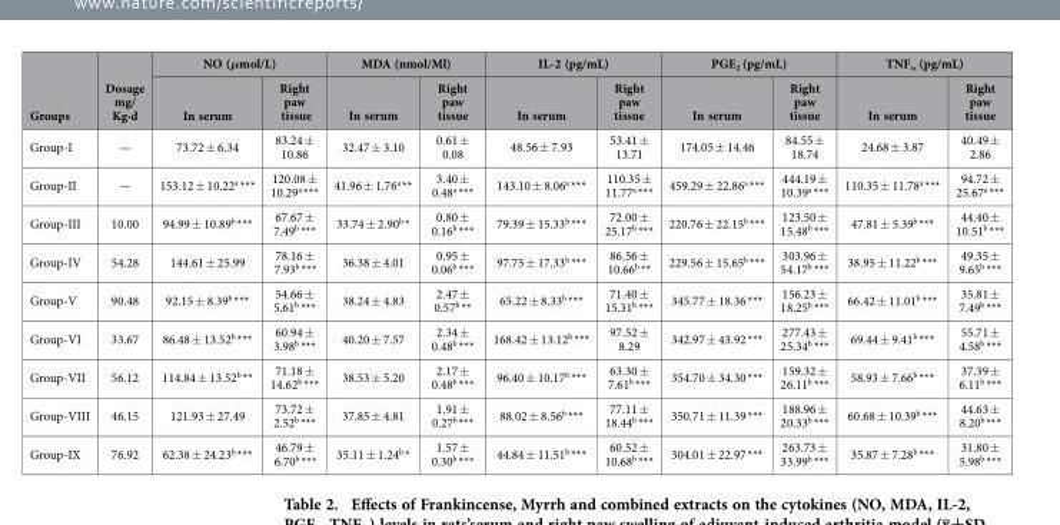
<table><thead><tr><td rowspan="2">Groups</td><td rowspan="2">Dosage mg/ Kg·d</td><td colspan="2">NO (μmol/L)</td><td colspan="2">MDA (nmol/Ml)</td><td colspan="2">IL-2 (pg/mL)</td><td colspan="2">PGE<sub>2</sub> (pg/mL)</td><td colspan="2">TNF<sub>α</sub> (pg/mL)</td></tr><tr><td>In serum</td><td>Right paw tissue</td><td>In serum</td><td>Right paw tissue</td><td>In serum</td><td>Right paw tissue</td><td>In serum</td><td>Right paw tissue</td><td>In serum</td><td>Right paw tissue</td></tr></thead><tbody><tr><td>Group-I</td><td>—</td><td>73.72 ± 6.34</td><td>83.24 ± 10.86</td><td>32.47 ± 3.10</td><td>0.61 ± 0.08</td><td>48.56 ± 7.93</td><td>53.41 ± 13.71</td><td>174.05 ± 14.46</td><td>84.55 ± 18.74</td><td>24.68 ± 3.87</td><td>40.49 ± 2.86</td></tr><tr><td>Group-II</td><td>—</td><td>153.12 ± 10.22a ***</td><td>120.08 ± 10.29a ***</td><td>41.96 ± 1.76a **</td><td>3.40 ± 0.48a ***</td><td>143.10 ± 8.06a ***</td><td>110.35 ± 11.77a ***</td><td>459.29 ± 22.86a ***</td><td>444.19 ± 10.39a ***</td><td>110.35 ± 11.78a ***</td><td>94.72 ± 25.67a ***</td></tr><tr><td>Group-III</td><td>10.00</td><td>94.99 ± 10.89b ***</td><td>67.67 ± 7.49b ***</td><td>33.74 ± 2.90b *</td><td>0.80 ± 0.16b ***</td><td>79.39 ± 15.33b ***</td><td>72.00 ± 25.17b ***</td><td>220.76 ± 22.15b ***</td><td>123.50 ± 15.48b ***</td><td>47.81 ± 5.39b ***</td><td>44.40 ± 10.51b ***</td></tr><tr><td>Group-IV</td><td>54.28</td><td>144.61 ± 25.99</td><td>78.16 ± 7.93b ***</td><td>36.38 ± 4.01</td><td>0.95 ± 0.06b ***</td><td>97.75 ± 17.33b ***</td><td>86.56 ± 10.66b **</td><td>229.56 ± 15.65b ***</td><td>303.96 ± 54.17b ***</td><td>38.95 ± 11.22b ***</td><td>49.35 ± 9.65b ***</td></tr><tr><td>Group-V</td><td>90.48</td><td>92.15 ± 8.39b ***</td><td>54.66 ± 5.61b ***</td><td>38.24 ± 4.83</td><td>2.47 ± 0.57b **</td><td>65.22 ± 8.33b ***</td><td>71.40 ± 15.31b ***</td><td>345.77 ± 18.36 ***</td><td>156.23 ± 18.25b ***</td><td>66.42 ± 11.01b ***</td><td>35.81 ± 7.49b ***</td></tr><tr><td>Group-VI</td><td>33.67</td><td>86.48 ± 13.52b ***</td><td>60.94 ± 3.98b ***</td><td>40.20 ± 7.57</td><td>2.34 ± 0.48b ***</td><td>168.42 ± 13.12b ***</td><td>97.52 ± 8.29</td><td>342.97 ± 43.92 ***</td><td>277.43 ± 25.34b ***</td><td>69.44 ± 9.41b ***</td><td>55.71 ± 4.58b ***</td></tr><tr><td>Group-VII</td><td>56.12</td><td>114.84 ± 13.52b **</td><td>71.18 ± 14.62b ***</td><td>38.53 ± 5.20</td><td>2.17 ± 0.48b ***</td><td>96.40 ± 10.17b ***</td><td>63.30 ± 7.61b ***</td><td>354.70 ± 34.30 ***</td><td>159.32 ± 26.11b ***</td><td>58.93 ± 7.66b ***</td><td>37.39 ± 6.11b ***</td></tr><tr><td>Group-VIII</td><td>46.15</td><td>121.93 ± 27.49</td><td>73.72 ± 2.52b ***</td><td>37.85 ± 4.81</td><td>1.91 ± 0.27<sup>b</sup> ***</td><td>88.02 ± 8.56b ***</td><td>77.11 ± 18.44b ***</td><td>350.71 ± 11.39 ***</td><td>188.96 ± 20.33b ***</td><td>60.68 ± 10.39b ***</td><td>44.63 ± 8.20b ***</td></tr><tr><td>Group-IX</td><td>76.92</td><td>62.38 ± 24.23b ***</td><td>46.79 ± 6.70b ***</td><td>35.11 ± 1.24b *</td><td>1.57 ± 0.30b ***</td><td>44.84 ± 11.51b ***</td><td>60.52 ± 10.68b ***</td><td>304.01 ± 22.97 ***</td><td>263.73 ± 33.99b ***</td><td>35.87 ± 7.28b ***</td><td>31.80 ± 5.98b ***</td></tr></tbody></table>